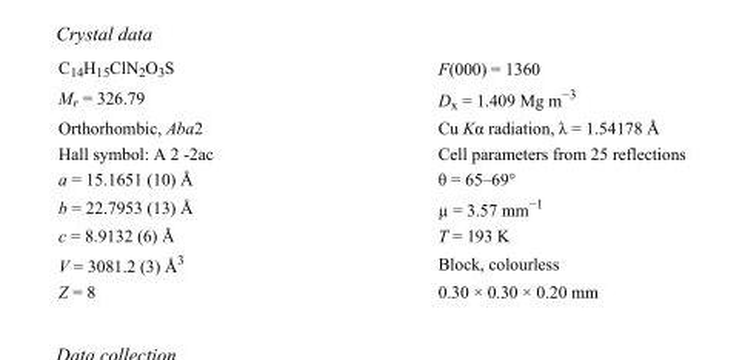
<table><tbody><tr><td>C<sub>14</sub>H<sub>15</sub>ClN<sub>2</sub>O<sub>3</sub>S</td><td>F(000) = 1360</td></tr><tr><td>M<sub>r</sub> = 326.79</td><td>D<sub>x</sub> = 1.409 Mg m<sup>−3</sup></td></tr><tr><td>Orthorhombic, Aba2</td><td>Cu Kα radiation, λ = 1.54178 Å</td></tr><tr><td>Hall symbol: A 2 -2ac</td><td>Cell parameters from 25 reflections</td></tr><tr><td>a = 15.1651 (10) Å</td><td>θ = 65–69°</td></tr><tr><td>b = 22.7953 (13) Å</td><td>µ = 3.57 mm<sup>−1</sup></td></tr><tr><td>c = 8.9132 (6) Å</td><td>T = 193 K</td></tr><tr><td>V = 3081.2 (3) Å<sup>3</sup></td><td>Block, colourless</td></tr><tr><td>Z = 8</td><td>0.30 × 0.30 × 0.20 mm</td></tr></tbody></table>